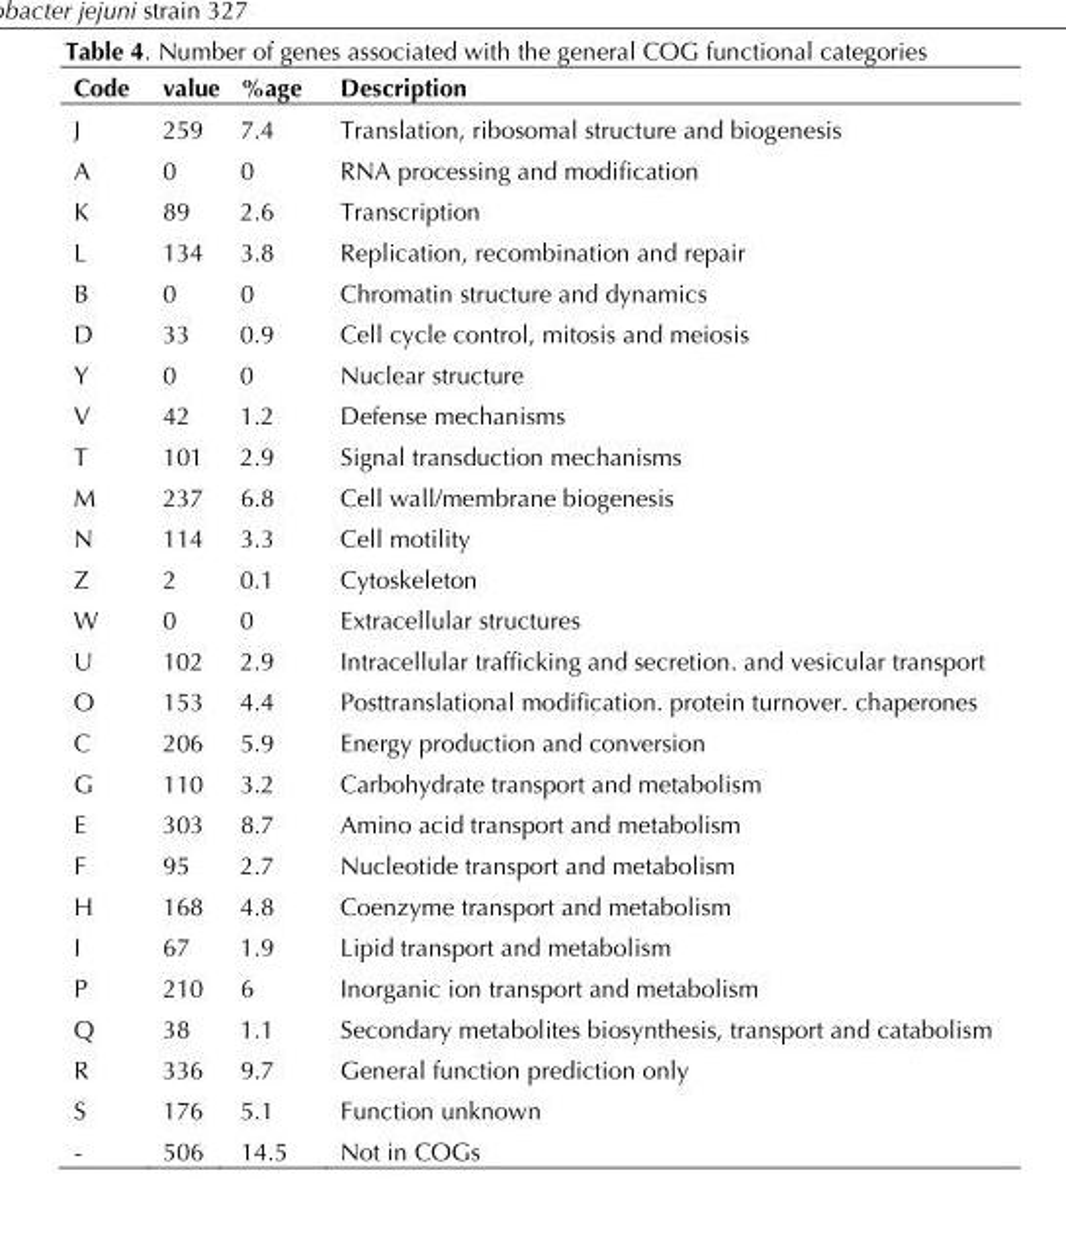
<table><thead><tr><td>Code</td><td>value</td><td>%age</td><td>Description</td></tr></thead><tbody><tr><td>J</td><td>259</td><td>7.4</td><td>Translation, ribosomal structure and biogenesis</td></tr><tr><td>A</td><td>0</td><td>0</td><td>RNA processing and modification</td></tr><tr><td>K</td><td>89</td><td>2.6</td><td>Transcription</td></tr><tr><td>L</td><td>134</td><td>3.8</td><td>Replication, recombination and repair</td></tr><tr><td>B</td><td>0</td><td>0</td><td>Chromatin structure and dynamics</td></tr><tr><td>D</td><td>33</td><td>0.9</td><td>Cell cycle control, mitosis and meiosis</td></tr><tr><td>Y</td><td>0</td><td>0</td><td>Nuclear structure</td></tr><tr><td>V</td><td>42</td><td>1.2</td><td>Defense mechanisms</td></tr><tr><td>T</td><td>101</td><td>2.9</td><td>Signal transduction mechanisms</td></tr><tr><td>M</td><td>237</td><td>6.8</td><td>Cell wall/membrane biogenesis</td></tr><tr><td>N</td><td>114</td><td>3.3</td><td>Cell motility</td></tr><tr><td>Z</td><td>2</td><td>0.1</td><td>Cytoskeleton</td></tr><tr><td>W</td><td>0</td><td>0</td><td>Extracellular structures</td></tr><tr><td>U</td><td>102</td><td>2.9</td><td>Intracellular trafficking and secretion. and vesicular transport</td></tr><tr><td>O</td><td>153</td><td>4.4</td><td>Posttranslational modification. protein turnover. chaperones</td></tr><tr><td>C</td><td>206</td><td>5.9</td><td>Energy production and conversion</td></tr><tr><td>G</td><td>110</td><td>3.2</td><td>Carbohydrate transport and metabolism</td></tr><tr><td>E</td><td>303</td><td>8.7</td><td>Amino acid transport and metabolism</td></tr><tr><td>F</td><td>95</td><td>2.7</td><td>Nucleotide transport and metabolism</td></tr><tr><td>H</td><td>168</td><td>4.8</td><td>Coenzyme transport and metabolism</td></tr><tr><td>I</td><td>67</td><td>1.9</td><td>Lipid transport and metabolism</td></tr><tr><td>P</td><td>210</td><td>6</td><td>Inorganic ion transport and metabolism</td></tr><tr><td>Q</td><td>38</td><td>1.1</td><td>Secondary metabolites biosynthesis, transport and catabolism</td></tr><tr><td>R</td><td>336</td><td>9.7</td><td>General function prediction only</td></tr><tr><td>S</td><td>176</td><td>5.1</td><td>Function unknown</td></tr><tr><td>-</td><td>506</td><td>14.5</td><td>Not in COGs</td></tr></tbody></table>